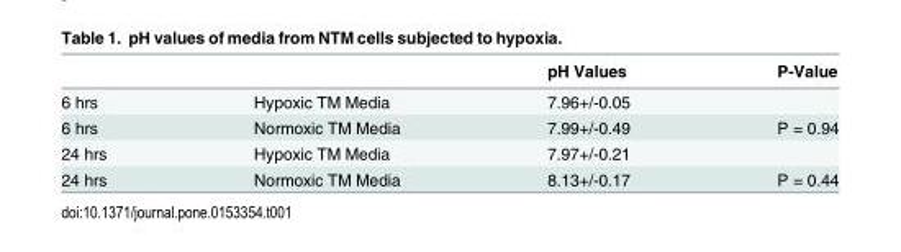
<table><thead><tr><td></td><td></td><td>pH Values</td><td>P-Value</td></tr></thead><tbody><tr><td>6 hrs</td><td>Hypoxic TM Media</td><td>7.96+/-0.05</td><td></td></tr><tr><td>6 hrs</td><td>Normoxic TM Media</td><td>7.99+/-0.49</td><td>P = 0.94</td></tr><tr><td>24 hrs</td><td>Hypoxic TM Media</td><td>7.97+/-0.21</td><td></td></tr><tr><td>24 hrs</td><td>Normoxic TM Media</td><td>8.13+/-0.17</td><td>P = 0.44</td></tr></tbody></table>